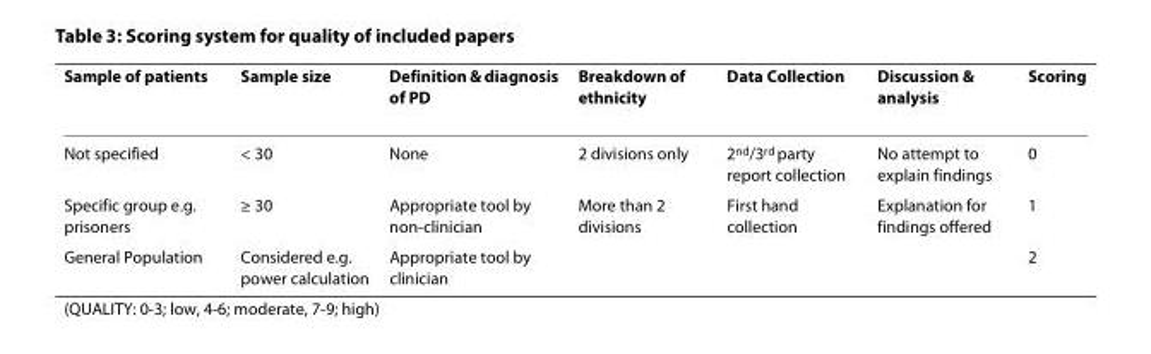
<table><thead><tr><td>Sample of patients</td><td>Sample size</td><td>Definition &amp; diagnosis of PD</td><td>Breakdown of ethnicity</td><td>Data Collection</td><td>Discussion &amp; analysis</td><td>Scoring</td></tr></thead><tbody><tr><td>Not specified</td><td>&lt; 30</td><td>None</td><td>2 divisions only</td><td>2<sup>nd</sup>/3<sup>rd</sup> party report collection</td><td>No attempt to explain findings</td><td>0</td></tr><tr><td>Specific group e.g. prisoners</td><td>≥ 30</td><td>Appropriate tool by non-clinician</td><td>More than 2 divisions</td><td>First hand collection</td><td>Explanation for findings offered</td><td>1</td></tr><tr><td>General Population</td><td>Considered e.g. power calculation</td><td>Appropriate tool by clinician</td><td></td><td></td><td></td><td>2</td></tr></tbody></table>